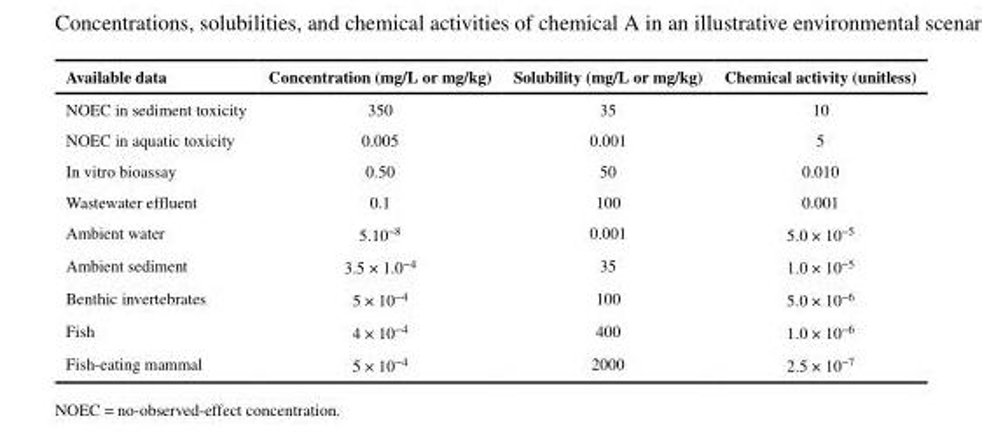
<table><thead><tr><td>Available data</td><td>Concentration (mg/L or mg/kg)</td><td>Solubility (mg/L or mg/kg)</td><td>Chemical activity (unitless)</td></tr></thead><tbody><tr><td>NOEC in sediment toxicity</td><td>350</td><td>35</td><td>10</td></tr><tr><td>NOEC in aquatic toxicity</td><td>0.005</td><td>0.001</td><td>5</td></tr><tr><td>In vitro bioassay</td><td>0.50</td><td>50</td><td>0.010</td></tr><tr><td>Wastewater effluent</td><td>0.1</td><td>100</td><td>0.001</td></tr><tr><td>Ambient water</td><td>5.10<sup>−8</sup></td><td>0.001</td><td>5.0 × 10<sup>−5</sup></td></tr><tr><td>Ambient sediment</td><td>3.5 × 1.0<sup>−4</sup></td><td>35</td><td>1.0 × 10<sup>−5</sup></td></tr><tr><td>Benthic invertebrates</td><td>5 × 10<sup>−4</sup></td><td>100</td><td>5.0 × 10<sup>−6</sup></td></tr><tr><td>Fish</td><td>4 × 10<sup>−4</sup></td><td>400</td><td>1.0 × 10<sup>−6</sup></td></tr><tr><td>Fish-eating mammal</td><td>5 × 10<sup>−4</sup></td><td>2000</td><td>2.5 × 10<sup>−7</sup></td></tr></tbody></table>